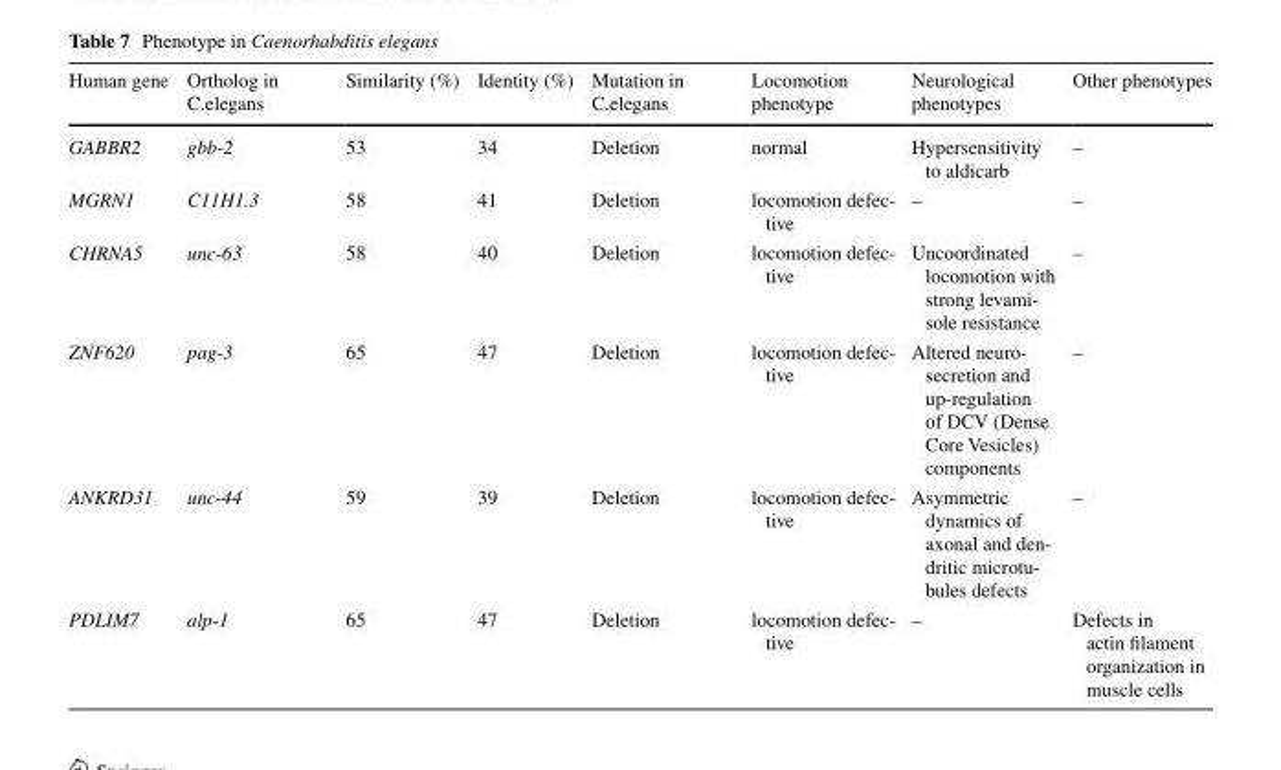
<table><thead><tr><td>Human gene</td><td>Ortholog in C.elegans</td><td>Similarity (%)</td><td>Identity (%)</td><td>Mutation in C.elegans</td><td>Locomotion phenotype</td><td>Neurological phenotypes</td><td>Other phenotypes</td></tr></thead><tbody><tr><td>GABBR2</td><td>gbb-2</td><td>53</td><td>34</td><td>Deletion</td><td>normal</td><td>Hypersensitivity to aldicarb</td><td>–</td></tr><tr><td>MGRN1</td><td>C11H1.3</td><td>58</td><td>41</td><td>Deletion</td><td>locomotion defec- tive</td><td>–</td><td>–</td></tr><tr><td>CHRNA5</td><td>unc-63</td><td>58</td><td>40</td><td>Deletion</td><td>locomotion defec- tive</td><td>Uncoordinated locomotion with strong levami- sole resistance</td><td>–</td></tr><tr><td>ZNF620</td><td>pag-3</td><td>65</td><td>47</td><td>Deletion</td><td>locomotion defec- tive</td><td>Altered neuro- secretion and up-regulation of DCV (Dense Core Vesicles) components</td><td>–</td></tr><tr><td>ANKRD31</td><td>unc-44</td><td>59</td><td>39</td><td>Deletion</td><td>locomotion defec- tive</td><td>Asymmetric dynamics of axonal and den- dritic microtu- bules defects</td><td>–</td></tr><tr><td>PDLIM7</td><td>alp-1</td><td>65</td><td>47</td><td>Deletion</td><td>locomotion defec- tive</td><td>–</td><td>Defects in actin filament organization in muscle cells</td></tr></tbody></table>